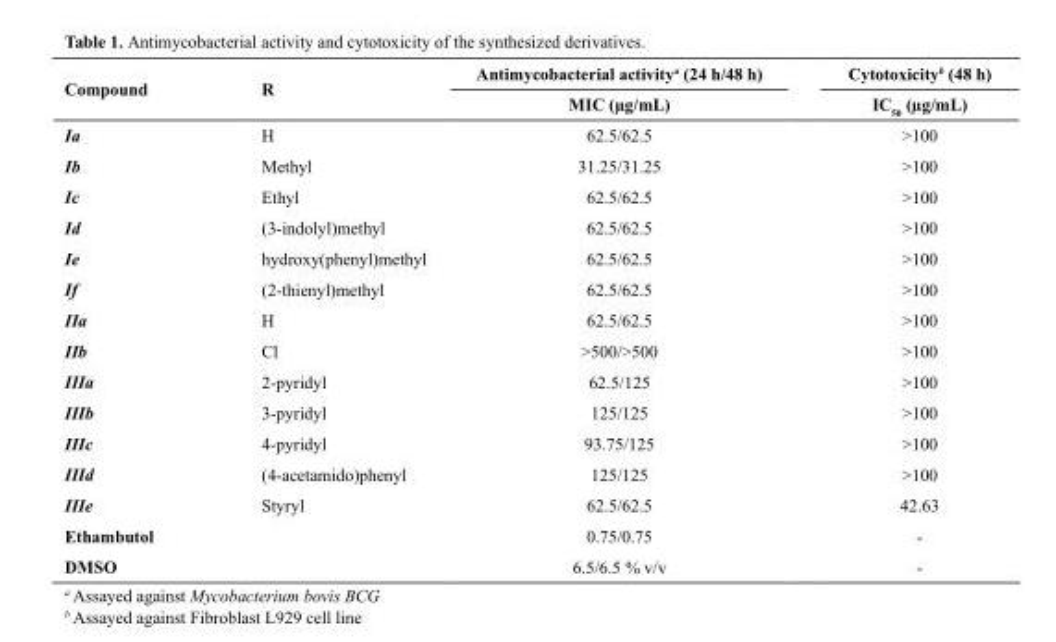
<table><thead><tr><td rowspan="2">Compound</td><td rowspan="2">R</td><td rowspan="2">Antimycobacterial activitya (24 h/48 h) MIC (µg/mL)</td><td rowspan="2">Cytotoxicityb (48 h) IC<sub>50</sub> (µg/mL)</td></tr><tr></tr></thead><tbody><tr><td>Ia</td><td>H</td><td>62.5/62.5</td><td>&gt;100</td></tr><tr><td>Ib</td><td>Methyl</td><td>31.25/31.25</td><td>&gt;100</td></tr><tr><td>Ic</td><td>Ethyl</td><td>62.5/62.5</td><td>&gt;100</td></tr><tr><td>Id</td><td>(3-indolyl)methyl</td><td>62.5/62.5</td><td>&gt;100</td></tr><tr><td>Ie</td><td>hydroxy(phenyl)methyl</td><td>62.5/62.5</td><td>&gt;100</td></tr><tr><td>If</td><td>(2-thienyl)methyl</td><td>62.5/62.5</td><td>&gt;100</td></tr><tr><td>IIa</td><td>H</td><td>62.5/62.5</td><td>&gt;100</td></tr><tr><td>IIb</td><td>Cl</td><td>&gt;500/&gt;500</td><td>&gt;100</td></tr><tr><td>IIIa</td><td>2-pyridyl</td><td>62.5/125</td><td>&gt;100</td></tr><tr><td>IIIb</td><td>3-pyridyl</td><td>125/125</td><td>&gt;100</td></tr><tr><td>IIIc</td><td>4-pyridyl</td><td>93.75/125</td><td>&gt;100</td></tr><tr><td>IIId</td><td>(4-acetamido)phenyl</td><td>125/125</td><td>&gt;100</td></tr><tr><td>IIIe</td><td>Styryl</td><td>62.5/62.5</td><td>42.63</td></tr><tr><td>Ethambutol</td><td></td><td>0.75/0.75</td><td>-</td></tr><tr><td>DMSO</td><td></td><td>6.5/6.5 % v/v</td><td>-</td></tr></tbody></table>